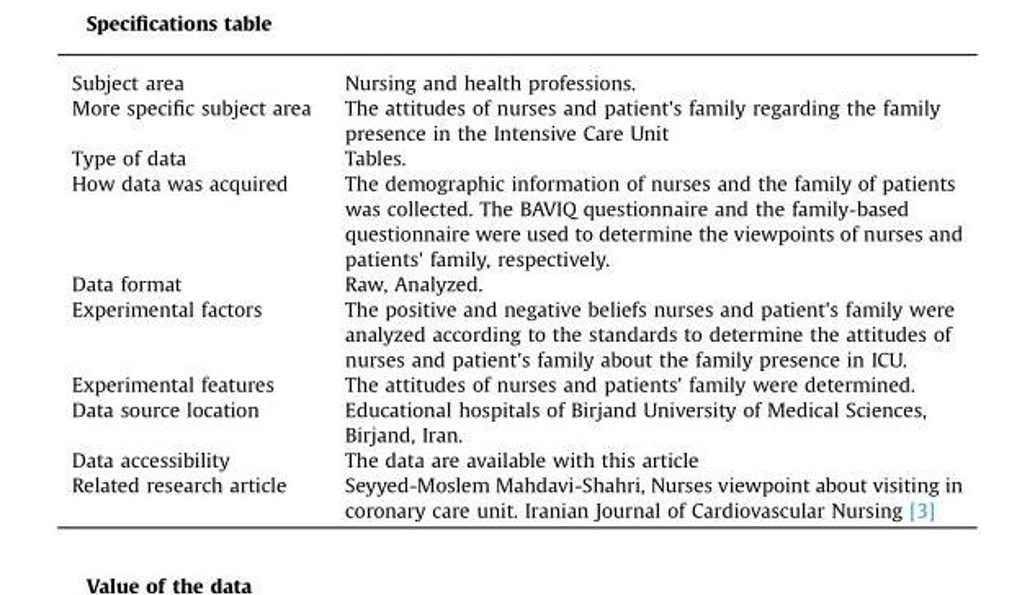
<table><tbody><tr><td>Subject area</td><td>Nursing and health professions.</td></tr><tr><td>More specific subject area</td><td>The attitudes of nurses and patient&#x27;s family regarding the family presence in the Intensive Care Unit</td></tr><tr><td>Type of data</td><td>Tables.</td></tr><tr><td>How data was acquired</td><td>The demographic information of nurses and the family of patients was collected. The BAVIQ questionnaire and the family-based questionnaire were used to determine the viewpoints of nurses and patients&#x27; family, respectively.</td></tr><tr><td>Data format</td><td>Raw, Analyzed.</td></tr><tr><td>Experimental factors</td><td>The positive and negative beliefs nurses and patient&#x27;s family were analyzed according to the standards to determine the attitudes of nurses and patient&#x27;s family about the family presence in ICU.</td></tr><tr><td>Experimental features</td><td>The attitudes of nurses and patients&#x27; family were determined.</td></tr><tr><td>Data source location</td><td>Educational hospitals of Birjand University of Medical Sciences, Birjand, Iran.</td></tr><tr><td>Data accessibility</td><td>The data are available with this article</td></tr><tr><td>Related research article</td><td>Seyyed-Moslem Mahdavi-Shahri, Nurses viewpoint about visiting in coronary care unit. Iranian Journal of Cardiovascular Nursing [3]</td></tr></tbody></table>